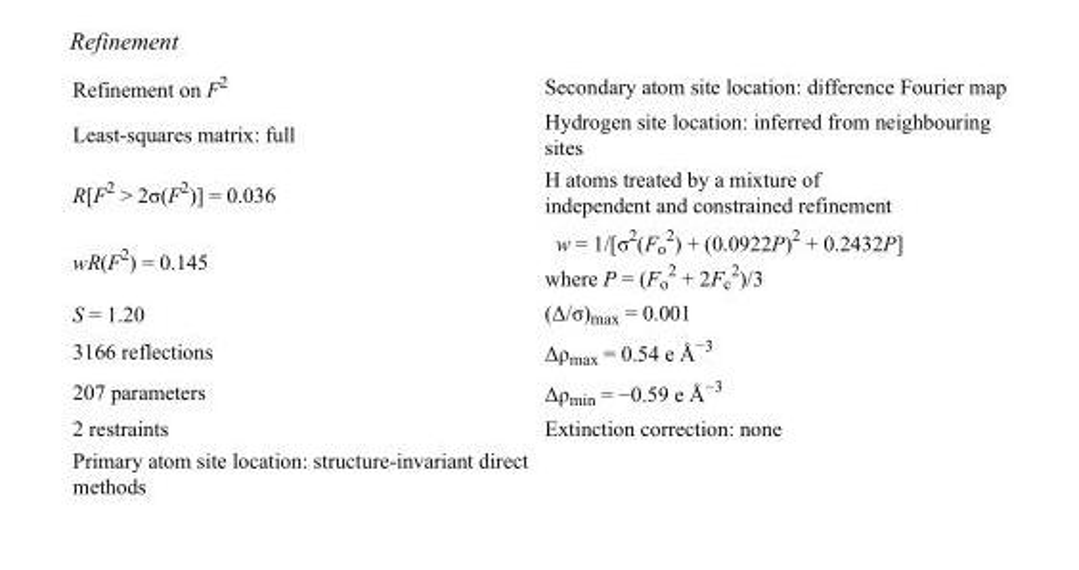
<table><tbody><tr><td>Refinement on F<sup>2</sup></td><td>Secondary atom site location: difference Fourier map</td></tr><tr><td>Least-squares matrix: full</td><td>Hydrogen site location: inferred from neighbouring sites</td></tr><tr><td>R[F<sup>2</sup> &gt; 2σ(F<sup>2</sup>)] = 0.036</td><td>H atoms treated by a mixture of independent and constrained refinement</td></tr><tr><td>wR(F<sup>2</sup>) = 0.145</td><td>w = 1/[σ<sup>2</sup>(F<sub>o</sub> <sup>2</sup>) + (0.0922P)<sup>2</sup> + 0.2432P] where P = (F<sub>o</sub> <sup>2</sup> + 2F<sub>c</sub> <sup>2</sup>)/3</td></tr><tr><td>S = 1.20</td><td>(Δ/σ)<sub>max</sub> = 0.001</td></tr><tr><td>3166 reflections</td><td>Δρ<sub>max</sub> = 0.54 e Å<sup>−3</sup></td></tr><tr><td>207 parameters</td><td>Δρ<sub>min</sub> = −0.59 e Å<sup>−3</sup></td></tr><tr><td>2 restraints</td><td>Extinction correction: none</td></tr><tr><td>Primary atom site location: structure-invariant direct methods</td><td></td></tr></tbody></table>